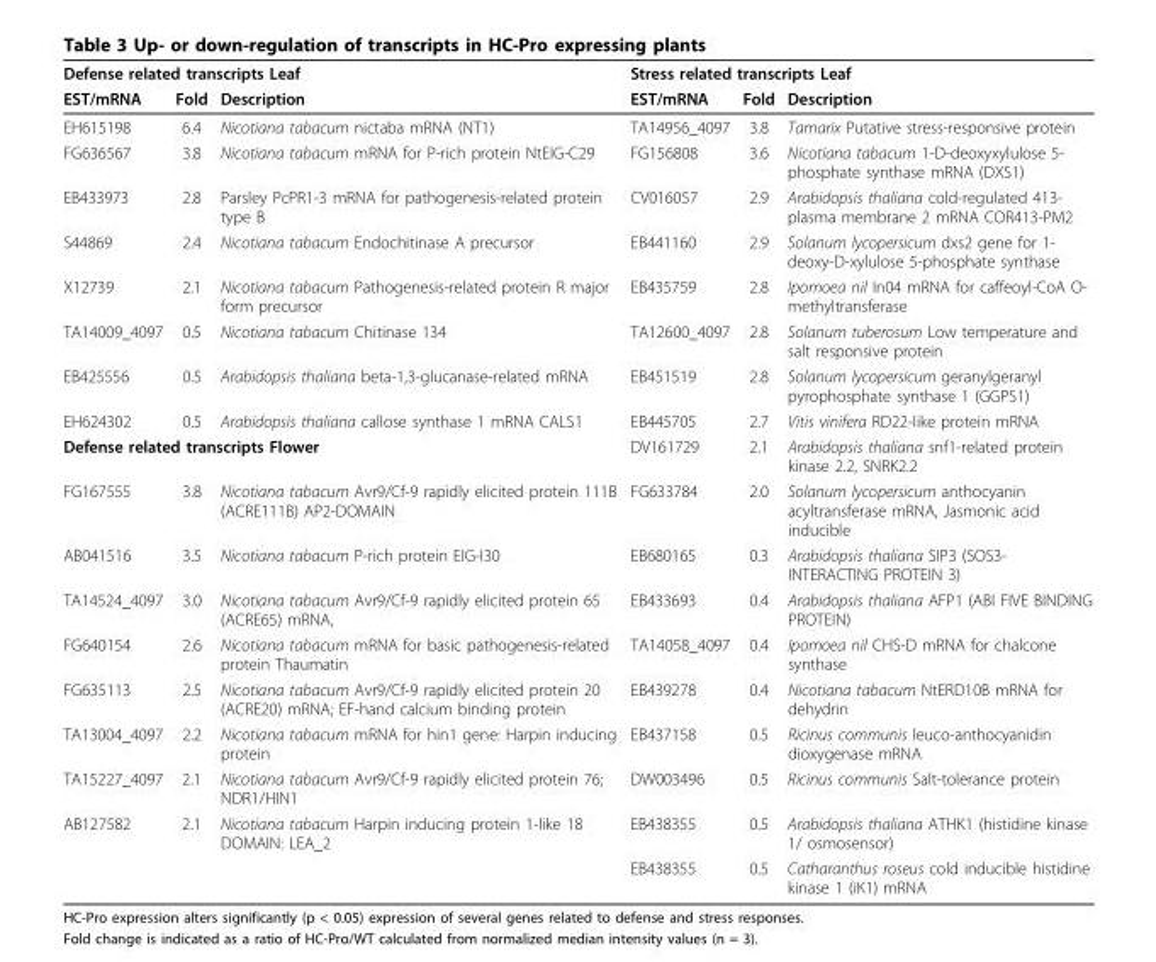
<table><thead><tr><td colspan="3">Defense related transcripts Leaf</td><td colspan="3">Stress related transcripts Leaf</td></tr><tr><td>EST/mRNA</td><td>Fold</td><td>Description</td><td>EST/mRNA</td><td>Fold</td><td>Description</td></tr></thead><tbody><tr><td>EH615198</td><td>6.4</td><td>Nicotiana tabacum nictaba mRNA (NT1)</td><td>TA14956_4097</td><td>3.8</td><td>Tamarix Putative stress-responsive protein</td></tr><tr><td>FG636567</td><td>3.8</td><td>Nicotiana tabacum mRNA for P-rich protein NtEIG-C29</td><td>FG156808</td><td>3.6</td><td>Nicotiana tabacum 1-D-deoxyxylulose 5- phosphate synthase mRNA (DXS1)</td></tr><tr><td>EB433973</td><td>2.8</td><td>Parsley PcPR1-3 mRNA for pathogenesis-related protein type B</td><td>CV016057</td><td>2.9</td><td>Arabidopsis thaliana cold-regulated 413- plasma membrane 2 mRNA COR413-PM2</td></tr><tr><td>S44869</td><td>2.4</td><td>Nicotiana tabacum Endochitinase A precursor</td><td>EB441160</td><td>2.9</td><td>Solanum lycopersicum dxs2 gene for 1- deoxy-D-xylulose 5-phosphate synthase</td></tr><tr><td>X12739</td><td>2.1</td><td>Nicotiana tabacum Pathogenesis-related protein R major form precursor</td><td>EB435759</td><td>2.8</td><td>Ipomoea nil In04 mRNA for caffeoyl-CoA O- methyltransferase</td></tr><tr><td>TA14009_4097</td><td>0.5</td><td>Nicotiana tabacum Chitinase 134</td><td>TA12600_4097</td><td>2.8</td><td>Solanum tuberosum Low temperature and salt responsive protein</td></tr><tr><td>EB425556</td><td>0.5</td><td>Arabidopsis thaliana beta-1,3-glucanase-related mRNA</td><td>EB451519</td><td>2.8</td><td>Solanum lycopersicum geranylgeranyl pyrophosphate synthase 1 (GGPS1)</td></tr><tr><td>EH624302</td><td>0.5</td><td>Arabidopsis thaliana callose synthase 1 mRNA CALS1</td><td>EB445705</td><td>2.7</td><td>Vitis vinifera RD22-like protein mRNA</td></tr><tr><td colspan="3">Defense related transcripts Flower</td><td>DV161729</td><td>2.1</td><td>Arabidopsis thaliana snf1-related protein kinase 2.2, SNRK2.2</td></tr><tr><td>FG167555</td><td>3.8</td><td>Nicotiana tabacum Avr9/Cf-9 rapidly elicited protein 111B (ACRE111B) AP2-DOMAIN</td><td>FG633784</td><td>2.0</td><td>Solanum lycopersicum anthocyanin acyltransferase mRNA, Jasmonic acid inducible</td></tr><tr><td>AB041516</td><td>3.5</td><td>Nicotiana tabacum P-rich protein EIG-I30</td><td>EB680165</td><td>0.3</td><td>Arabidopsis thaliana SIP3 (SOS3- INTERACTING PROTEIN 3)</td></tr><tr><td>TA14524_4097</td><td>3.0</td><td>Nicotiana tabacum Avr9/Cf-9 rapidly elicited protein 65 (ACRE65) mRNA,</td><td>EB433693</td><td>0.4</td><td>Arabidopsis thaliana AFP1 (ABI FIVE BINDING PROTEIN)</td></tr><tr><td>FG640154</td><td>2.6</td><td>Nicotiana tabacum mRNA for basic pathogenesis-related protein Thaumatin</td><td>TA14058_4097</td><td>0.4</td><td>Ipomoea nil CHS-D mRNA for chalcone synthase</td></tr><tr><td>FG635113</td><td>2.5</td><td>Nicotiana tabacum Avr9/Cf-9 rapidly elicited protein 20 (ACRE20) mRNA; EF-hand calcium binding protein</td><td>EB439278</td><td>0.4</td><td>Nicotiana tabacum NtERD10B mRNA for dehydrin</td></tr><tr><td>TA13004_4097</td><td>2.2</td><td>Nicotiana tabacum mRNA for hin1 gene: Harpin inducing protein</td><td>EB437158</td><td>0.5</td><td>Ricinus communis leuco-anthocyanidin dioxygenase mRNA</td></tr><tr><td>TA15227_4097</td><td>2.1</td><td>Nicotiana tabacum Avr9/Cf-9 rapidly elicited protein 76; NDR1/HIN1</td><td>DW003496</td><td>0.5</td><td>Ricinus communis Salt-tolerance protein</td></tr><tr><td rowspan="2">AB127582</td><td>2.1</td><td>Nicotiana tabacum Harpin inducing protein 1-like 18 DOMAIN: LEA_2</td><td>EB438355</td><td>0.5</td><td>Arabidopsis thaliana ATHK1 (histidine kinase 1/ osmosensor)</td></tr><tr><td></td><td></td><td>EB438355</td><td>0.5</td><td>Catharanthus roseus cold inducible histidine kinase 1 (iK1) mRNA</td></tr></tbody></table>